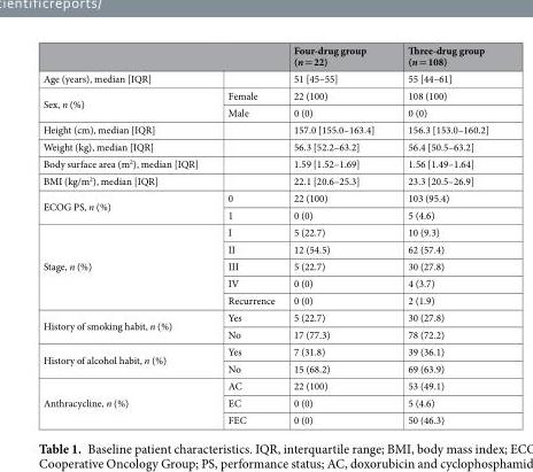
<table><thead><tr><td></td><td></td><td>Four-drug group (n = 22)</td><td>Three-drug group (n = 108)</td></tr></thead><tbody><tr><td>Age (years), median [IQR]</td><td></td><td>51 [45–55]</td><td>55 [44–61]</td></tr><tr><td rowspan="2">Sex, n (%)</td><td>Female</td><td>22 (100)</td><td>108 (100)</td></tr><tr><td>Male</td><td>0 (0)</td><td>0 (0)</td></tr><tr><td>Height (cm), median [IQR]</td><td></td><td>157.0 [155.0–163.4]</td><td>156.3 [153.0–160.2]</td></tr><tr><td>Weight (kg), median [IQR]</td><td></td><td>56.3 [52.2–63.2]</td><td>56.4 [50.5–63.2]</td></tr><tr><td>Body surface area (m<sup>2</sup>), median [IQR]</td><td></td><td>1.59 [1.52–1.69]</td><td>1.56 [1.49–1.64]</td></tr><tr><td>BMI (kg/m<sup>2</sup>), median [IQR]</td><td></td><td>22.1 [20.6–25.3]</td><td>23.3 [20.5–26.9]</td></tr><tr><td rowspan="2">ECOG PS, n (%)</td><td>0</td><td>22 (100)</td><td>103 (95.4)</td></tr><tr><td>1</td><td>0 (0)</td><td>5 (4.6)</td></tr><tr><td rowspan="5">Stage, n (%)</td><td>I</td><td>5 (22.7)</td><td>10 (9.3)</td></tr><tr><td>II</td><td>12 (54.5)</td><td>62 (57.4)</td></tr><tr><td>III</td><td>5 (22.7)</td><td>30 (27.8)</td></tr><tr><td>IV</td><td>0 (0)</td><td>4 (3.7)</td></tr><tr><td>Recurrence</td><td>0 (0)</td><td>2 (1.9)</td></tr><tr><td rowspan="2">History of smoking habit, n (%)</td><td>Yes</td><td>5 (22.7)</td><td>30 (27.8)</td></tr><tr><td>No</td><td>17 (77.3)</td><td>78 (72.2)</td></tr><tr><td rowspan="2">History of alcohol habit, n (%)</td><td>Yes</td><td>7 (31.8)</td><td>39 (36.1)</td></tr><tr><td>No</td><td>15 (68.2)</td><td>69 (63.9)</td></tr><tr><td rowspan="3">Anthracycline, n (%)</td><td>AC</td><td>22 (100)</td><td>53 (49.1)</td></tr><tr><td>EC</td><td>0 (0)</td><td>5 (4.6)</td></tr><tr><td>FEC</td><td>0 (0)</td><td>50 (46.3)</td></tr></tbody></table>